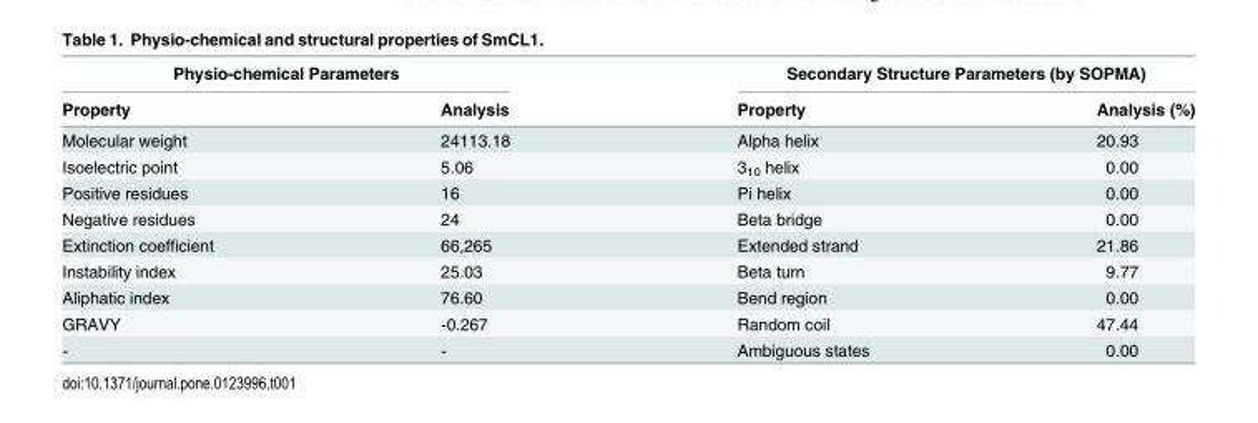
<table><thead><tr><td colspan="2">Physio-chemical Parameters</td><td colspan="2">Secondary Structure Parameters (by SOPMA)</td></tr><tr><td>Property</td><td>Analysis</td><td>Property</td><td>Analysis (%)</td></tr></thead><tbody><tr><td>Molecular weight</td><td>24113.18</td><td>Alpha helix</td><td>20.93</td></tr><tr><td>Isoelectric point</td><td>5.06</td><td>3<sub>10</sub> helix</td><td>0.00</td></tr><tr><td>Positive residues</td><td>16</td><td>Pi helix</td><td>0.00</td></tr><tr><td>Negative residues</td><td>24</td><td>Beta bridge</td><td>0.00</td></tr><tr><td>Extinction coefficient</td><td>66,265</td><td>Extended strand</td><td>21.86</td></tr><tr><td>Instability index</td><td>25.03</td><td>Beta turn</td><td>9.77</td></tr><tr><td>Aliphatic index</td><td>76.60</td><td>Bend region</td><td>0.00</td></tr><tr><td>GRAVY</td><td>-0.267</td><td>Random coil</td><td>47.44</td></tr><tr><td>-</td><td>-</td><td>Ambiguous states</td><td>0.00</td></tr></tbody></table>